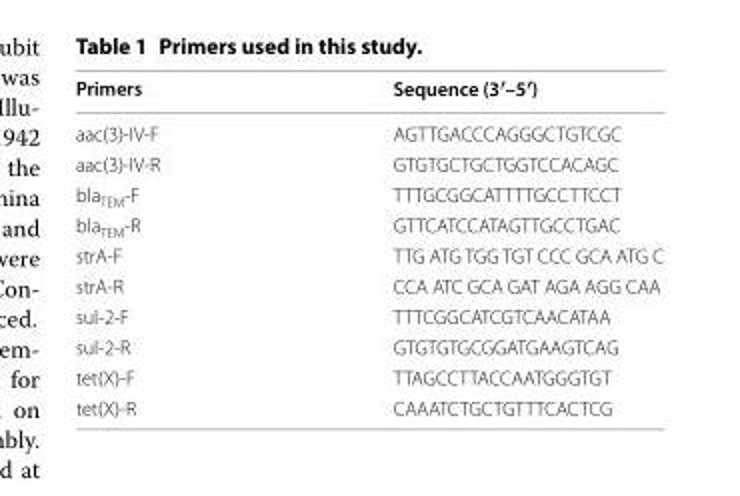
<table><thead><tr><td>Primers</td><td>Sequence (3′–5′)</td></tr></thead><tbody><tr><td>aac(3)‑IV‑F</td><td>AGTTGACCCAGGGCTGTCGC</td></tr><tr><td>aac(3)‑IV‑R</td><td>GTGTGCTGCTGGTCCACAGC</td></tr><tr><td>bla<sub>TEM</sub>‑F</td><td>TTTGCGGCATTTTGCCTTCCT</td></tr><tr><td>bla<sub>TEM</sub>‑R</td><td>GTTCATCCATAGTTGCCTGAC</td></tr><tr><td>strA‑F</td><td>TTG ATG TGG TGT CCC GCA ATG C</td></tr><tr><td>strA‑R</td><td>CCA ATC GCA GAT AGA AGG CAA</td></tr><tr><td>sul‑2‑F</td><td>TTTCGGCATCGTCAACATAA</td></tr><tr><td>sul‑2‑R</td><td>GTGTGTGCGGATGAAGTCAG</td></tr><tr><td>tet(X)‑F</td><td>TTAGCCTTACCAATGGGTGT</td></tr><tr><td>tet(X)‑R</td><td>CAAATCTGCTGTTTCACTCG</td></tr></tbody></table>